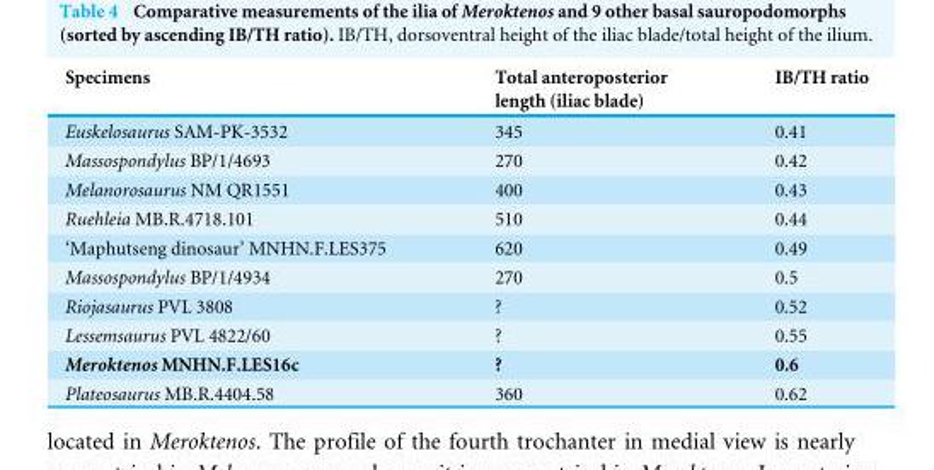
<table><thead><tr><td>Specimens</td><td>Total anteroposterior length (iliac blade)</td><td>IB/TH ratio</td></tr></thead><tbody><tr><td>Euskelosaurus SAM-PK-3532</td><td>345</td><td>0.41</td></tr><tr><td>Massospondylus BP/1/4693</td><td>270</td><td>0.42</td></tr><tr><td>Melanorosaurus NM QR1551</td><td>400</td><td>0.43</td></tr><tr><td>Ruehleia MB.R.4718.101</td><td>510</td><td>0.44</td></tr><tr><td>‘Maphutseng dinosaur’ MNHN.F.LES375</td><td>620</td><td>0.49</td></tr><tr><td>Massospondylus BP/1/4934</td><td>270</td><td>0.5</td></tr><tr><td>Riojasaurus PVL 3808</td><td>?</td><td>0.52</td></tr><tr><td>Lessemsaurus PVL 4822/60</td><td>?</td><td>0.55</td></tr><tr><td>Meroktenos MNHN.F.LES16c</td><td>?</td><td>0.6</td></tr><tr><td>Plateosaurus MB.R.4404.58</td><td>360</td><td>0.62</td></tr></tbody></table>